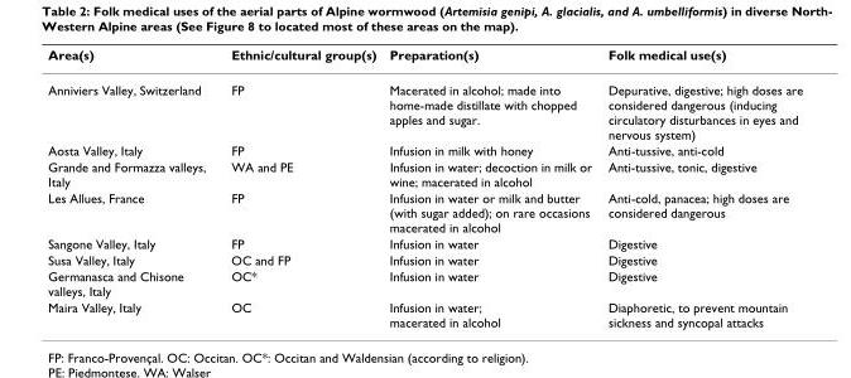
<table><thead><tr><td>Area(s)</td><td>Ethnic/cultural group(s)</td><td>Preparation(s)</td><td>Folk medical use(s)</td></tr></thead><tbody><tr><td>Anniviers Valley, Switzerland</td><td>FP</td><td>Macerated in alcohol; made into home-made distillate with chopped apples and sugar.</td><td>Depurative, digestive; high doses are considered dangerous (inducing circulatory disturbances in eyes and nervous system)</td></tr><tr><td>Aosta Valley, Italy</td><td>FP</td><td>Infusion in milk with honey</td><td>Anti-tussive, anti-cold</td></tr><tr><td>Grande and Formazza valleys, Italy</td><td>WA and PE</td><td>Infusion in water; decoction in milk or wine; macerated in alcohol</td><td>Anti-tussive, tonic, digestive</td></tr><tr><td>Les Allues, France</td><td>FP</td><td>Infusion in water or milk and butter (with sugar added); on rare occasions macerated in alcohol</td><td>Anti-cold, panacea; high doses are considered dangerous</td></tr><tr><td>Sangone Valley, Italy</td><td>FP</td><td>Infusion in water</td><td>Digestive</td></tr><tr><td>Susa Valley, Italy</td><td>OC and FP</td><td>Infusion in water</td><td>Digestive</td></tr><tr><td>Germanasca and Chisone valleys, Italy</td><td>OC*</td><td>Infusion in water</td><td>Digestive</td></tr><tr><td>Maira Valley, Italy</td><td>OC</td><td>Infusion in water; macerated in alcohol</td><td>Diaphoretic, to prevent mountain sickness and syncopal attacks</td></tr></tbody></table>